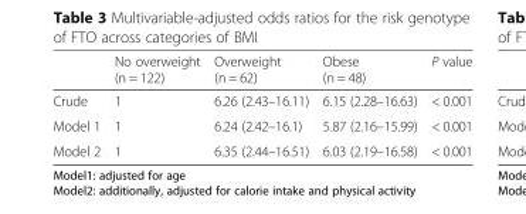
<table><thead><tr><td></td><td>No overweight (n = 122)</td><td>Overweight (n = 62)</td><td>Obese (n = 48)</td><td>P value</td></tr></thead><tbody><tr><td>Crude</td><td>1</td><td>6.26 (2.43–16.11)</td><td>6.15 (2.28–16.63)</td><td>&lt; 0.001</td></tr><tr><td>Model 1</td><td>1</td><td>6.24 (2.42–16.1)</td><td>5.87 (2.16–15.99)</td><td>&lt; 0.001</td></tr><tr><td>Model 2</td><td>1</td><td>6.35 (2.44–16.51)</td><td>6.03 (2.19–16.58)</td><td>&lt; 0.001</td></tr></tbody></table>